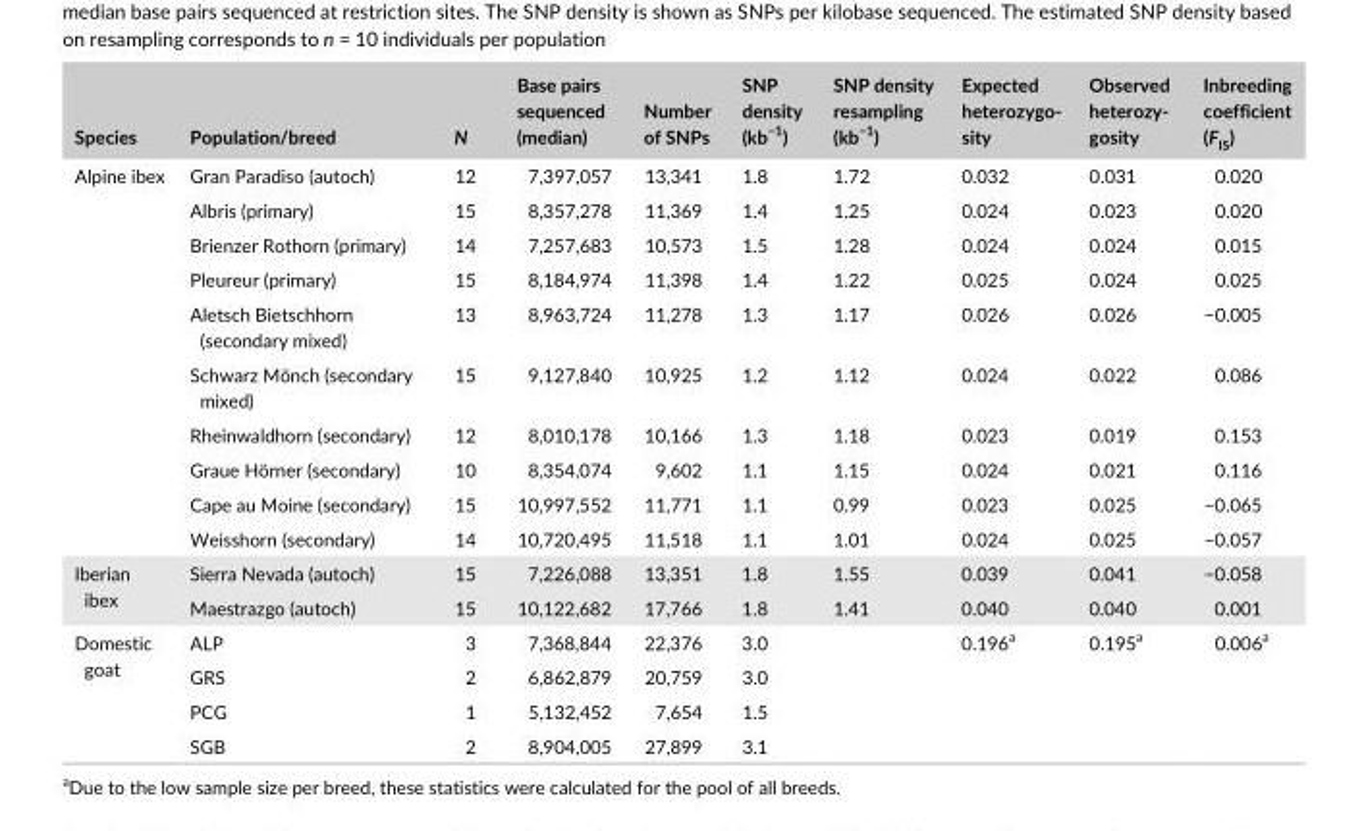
<table><thead><tr><td>Species</td><td>Population/breed</td><td>N</td><td>Base pairs sequenced (median)</td><td>Number of SNPs</td><td>SNP density (kb<sup>−1</sup>)</td><td>SNP density resampling (kb<sup>−1</sup>)</td><td>Expected heterozygo- sity</td><td>Observed heterozy- gosity</td><td>Inbreeding coefficient (F<sub>IS</sub>)</td></tr></thead><tbody><tr><td rowspan="10">Alpine ibex</td><td>Gran Paradiso (autoch)</td><td>12</td><td>7,397,057</td><td>13,341</td><td>1.8</td><td>1.72</td><td>0.032</td><td>0.031</td><td>0.020</td></tr><tr><td>Albris (primary)</td><td>15</td><td>8,357,278</td><td>11,369</td><td>1.4</td><td>1.25</td><td>0.024</td><td>0.023</td><td>0.020</td></tr><tr><td>Brienzer Rothorn (primary)</td><td>14</td><td>7,257,683</td><td>10,573</td><td>1.5</td><td>1.28</td><td>0.024</td><td>0.024</td><td>0.015</td></tr><tr><td>Pleureur (primary)</td><td>15</td><td>8,184,974</td><td>11,398</td><td>1.4</td><td>1.22</td><td>0.025</td><td>0.024</td><td>0.025</td></tr><tr><td>Aletsch Bietschhorn (secondary mixed)</td><td>13</td><td>8,963,724</td><td>11,278</td><td>1.3</td><td>1.17</td><td>0.026</td><td>0.026</td><td>−0.005</td></tr><tr><td>Schwarz Mönch (secondary mixed)</td><td>15</td><td>9,127,840</td><td>10,925</td><td>1.2</td><td>1.12</td><td>0.024</td><td>0.022</td><td>0.086</td></tr><tr><td>Rheinwaldhorn (secondary)</td><td>12</td><td>8,010,178</td><td>10,166</td><td>1.3</td><td>1.18</td><td>0.023</td><td>0.019</td><td>0.153</td></tr><tr><td>Graue Hörner (secondary)</td><td>10</td><td>8,354,074</td><td>9,602</td><td>1.1</td><td>1.15</td><td>0.024</td><td>0.021</td><td>0.116</td></tr><tr><td>Cape au Moine (secondary)</td><td>15</td><td>10,997,552</td><td>11,771</td><td>1.1</td><td>0.99</td><td>0.023</td><td>0.025</td><td>−0.065</td></tr><tr><td>Weisshorn (secondary)</td><td>14</td><td>10,720,495</td><td>11,518</td><td>1.1</td><td>1.01</td><td>0.024</td><td>0.025</td><td>−0.057</td></tr><tr><td rowspan="2">Iberian ibex</td><td>Sierra Nevada (autoch)</td><td>15</td><td>7,226,088</td><td>13,351</td><td>1.8</td><td>1.55</td><td>0.039</td><td>0.041</td><td>−0.058</td></tr><tr><td>Maestrazgo (autoch)</td><td>15</td><td>10,122,682</td><td>17,766</td><td>1.8</td><td>1.41</td><td>0.040</td><td>0.040</td><td>0.001</td></tr><tr><td rowspan="4">Domestic goat</td><td>ALP</td><td>3</td><td>7,368,844</td><td>22,376</td><td>3.0</td><td></td><td>0.196<sup>a</sup></td><td>0.195<sup>a</sup></td><td>0.006<sup>a</sup></td></tr><tr><td>GRS</td><td>2</td><td>6,862,879</td><td>20,759</td><td>3.0</td><td></td><td></td><td></td><td></td></tr><tr><td>PCG</td><td>1</td><td>5,132,452</td><td>7,654</td><td>1.5</td><td></td><td></td><td></td><td></td></tr><tr><td>SGB</td><td>2</td><td>8,904,005</td><td>27,899</td><td>3.1</td><td></td><td></td><td></td><td></td></tr></tbody></table>